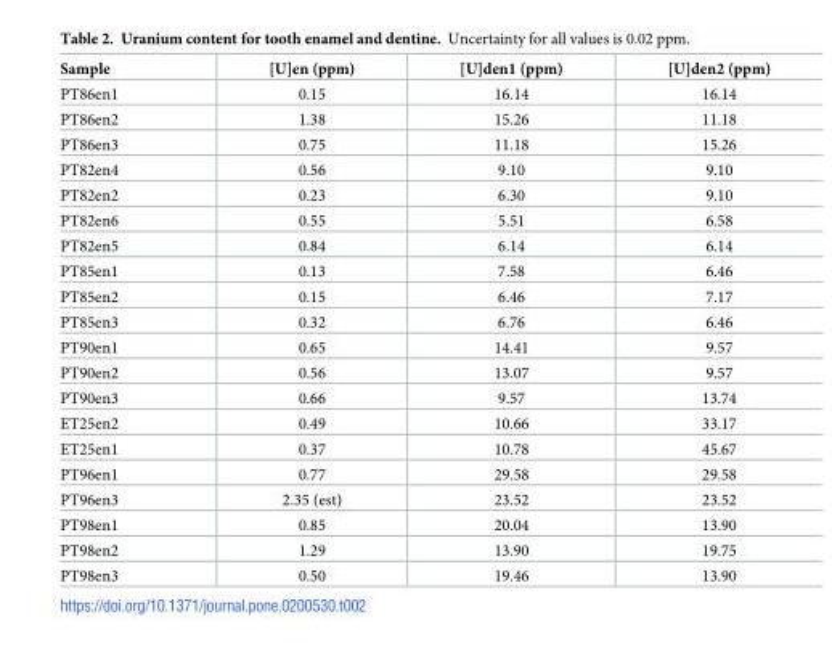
<table><thead><tr><td>Sample</td><td>[U]en (ppm)</td><td>[U]den1 (ppm)</td><td>[U]den2 (ppm)</td></tr></thead><tbody><tr><td>PT86en1</td><td>0.15</td><td>16.14</td><td>16.14</td></tr><tr><td>PT86en2</td><td>1.38</td><td>15.26</td><td>11.18</td></tr><tr><td>PT86en3</td><td>0.75</td><td>11.18</td><td>15.26</td></tr><tr><td>PT82en4</td><td>0.56</td><td>9.10</td><td>9.10</td></tr><tr><td>PT82en2</td><td>0.23</td><td>6.30</td><td>9.10</td></tr><tr><td>PT82en6</td><td>0.55</td><td>5.51</td><td>6.58</td></tr><tr><td>PT82en5</td><td>0.84</td><td>6.14</td><td>6.14</td></tr><tr><td>PT85en1</td><td>0.13</td><td>7.58</td><td>6.46</td></tr><tr><td>PT85en2</td><td>0.15</td><td>6.46</td><td>7.17</td></tr><tr><td>PT85en3</td><td>0.32</td><td>6.76</td><td>6.46</td></tr><tr><td>PT90en1</td><td>0.65</td><td>14.41</td><td>9.57</td></tr><tr><td>PT90en2</td><td>0.56</td><td>13.07</td><td>9.57</td></tr><tr><td>PT90en3</td><td>0.66</td><td>9.57</td><td>13.74</td></tr><tr><td>ET25en2</td><td>0.49</td><td>10.66</td><td>33.17</td></tr><tr><td>ET25en1</td><td>0.37</td><td>10.78</td><td>45.67</td></tr><tr><td>PT96en1</td><td>0.77</td><td>29.58</td><td>29.58</td></tr><tr><td>PT96en3</td><td>2.35 (est)</td><td>23.52</td><td>23.52</td></tr><tr><td>PT98en1</td><td>0.85</td><td>20.04</td><td>13.90</td></tr><tr><td>PT98en2</td><td>1.29</td><td>13.90</td><td>19.75</td></tr><tr><td>PT98en3</td><td>0.50</td><td>19.46</td><td>13.90</td></tr></tbody></table>